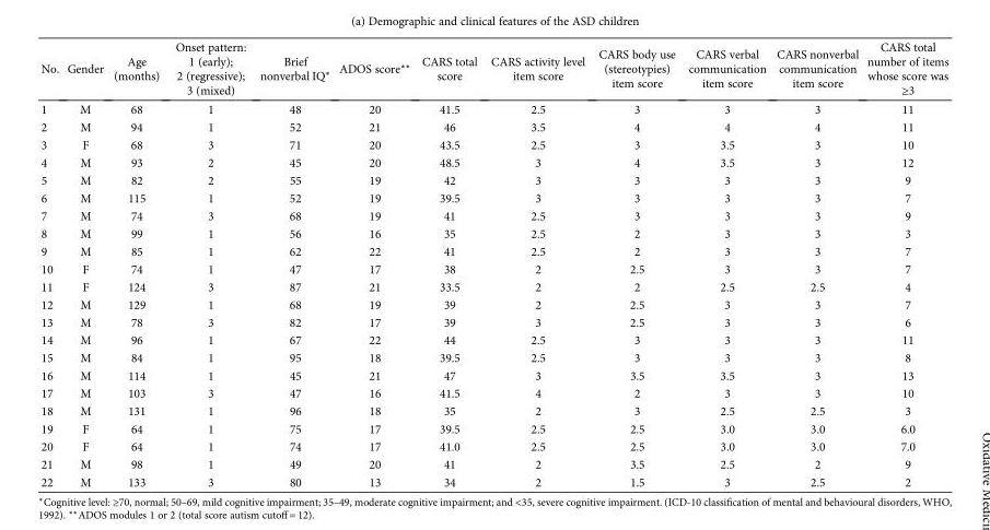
<table><thead><tr><td>No.</td><td>Gender</td><td>Age (months)</td><td>Onset pattern: 1 (early); 2 (regressive); 3 (mixed)</td><td>Brief nonverbal IQ∗</td><td>ADOS score∗∗</td><td>CARS total score</td><td>CARS activity level item score</td><td>CARS body use (stereotypies) item score</td><td>CARS verbal communication item score</td><td>CARS nonverbal communication item score</td><td>CARS total number of items whose score was ≥3</td></tr></thead><tbody><tr><td>1</td><td>M</td><td>68</td><td>1</td><td>48</td><td>20</td><td>41.5</td><td>2.5</td><td>3</td><td>3</td><td>3</td><td>11</td></tr><tr><td>2</td><td>M</td><td>94</td><td>1</td><td>52</td><td>21</td><td>46</td><td>3.5</td><td>4</td><td>4</td><td>4</td><td>11</td></tr><tr><td>3</td><td>F</td><td>68</td><td>3</td><td>71</td><td>20</td><td>43.5</td><td>2.5</td><td>3</td><td>3.5</td><td>3</td><td>10</td></tr><tr><td>4</td><td>M</td><td>93</td><td>2</td><td>45</td><td>20</td><td>48.5</td><td>3</td><td>4</td><td>3.5</td><td>3</td><td>12</td></tr><tr><td>5</td><td>M</td><td>82</td><td>2</td><td>55</td><td>19</td><td>42</td><td>3</td><td>3</td><td>3</td><td>3</td><td>9</td></tr><tr><td>6</td><td>M</td><td>115</td><td>1</td><td>52</td><td>19</td><td>39.5</td><td>3</td><td>3</td><td>3</td><td>3</td><td>7</td></tr><tr><td>7</td><td>M</td><td>74</td><td>3</td><td>68</td><td>19</td><td>41</td><td>2.5</td><td>3</td><td>3</td><td>3</td><td>9</td></tr><tr><td>8</td><td>M</td><td>99</td><td>1</td><td>56</td><td>16</td><td>35</td><td>2.5</td><td>2</td><td>3</td><td>3</td><td>3</td></tr><tr><td>9</td><td>M</td><td>85</td><td>1</td><td>62</td><td>22</td><td>41</td><td>2.5</td><td>2</td><td>3</td><td>3</td><td>7</td></tr><tr><td>10</td><td>F</td><td>74</td><td>1</td><td>47</td><td>17</td><td>38</td><td>2</td><td>2.5</td><td>3</td><td>3</td><td>7</td></tr><tr><td>11</td><td>F</td><td>124</td><td>3</td><td>87</td><td>21</td><td>33.5</td><td>2</td><td>2</td><td>2.5</td><td>2.5</td><td>4</td></tr><tr><td>12</td><td>M</td><td>129</td><td>1</td><td>68</td><td>19</td><td>39</td><td>2</td><td>2.5</td><td>3</td><td>3</td><td>7</td></tr><tr><td>13</td><td>M</td><td>78</td><td>3</td><td>82</td><td>17</td><td>39</td><td>3</td><td>2.5</td><td>3</td><td>3</td><td>6</td></tr><tr><td>14</td><td>M</td><td>96</td><td>1</td><td>67</td><td>22</td><td>44</td><td>2.5</td><td>3</td><td>3</td><td>3</td><td>11</td></tr><tr><td>15</td><td>M</td><td>84</td><td>1</td><td>95</td><td>18</td><td>39.5</td><td>2.5</td><td>3</td><td>3</td><td>3</td><td>8</td></tr><tr><td>16</td><td>M</td><td>114</td><td>1</td><td>45</td><td>21</td><td>47</td><td>3</td><td>3.5</td><td>3.5</td><td>3</td><td>13</td></tr><tr><td>17</td><td>M</td><td>103</td><td>3</td><td>47</td><td>16</td><td>41.5</td><td>4</td><td>2</td><td>3</td><td>3</td><td>10</td></tr><tr><td>18</td><td>M</td><td>131</td><td>1</td><td>96</td><td>18</td><td>35</td><td>2</td><td>3</td><td>2.5</td><td>2.5</td><td>3</td></tr><tr><td>19</td><td>F</td><td>64</td><td>1</td><td>75</td><td>17</td><td>39.5</td><td>2.5</td><td>2.5</td><td>3.0</td><td>3.0</td><td>6.0</td></tr><tr><td>20</td><td>F</td><td>64</td><td>1</td><td>74</td><td>17</td><td>41.0</td><td>2.5</td><td>2.5</td><td>3.0</td><td>3.0</td><td>7.0</td></tr><tr><td>21</td><td>M</td><td>98</td><td>1</td><td>49</td><td>20</td><td>41</td><td>2</td><td>3.5</td><td>2.5</td><td>2</td><td>9</td></tr><tr><td>22</td><td>M</td><td>133</td><td>3</td><td>80</td><td>13</td><td>34</td><td>2</td><td>1.5</td><td>3</td><td>2.5</td><td>2</td></tr></tbody></table>